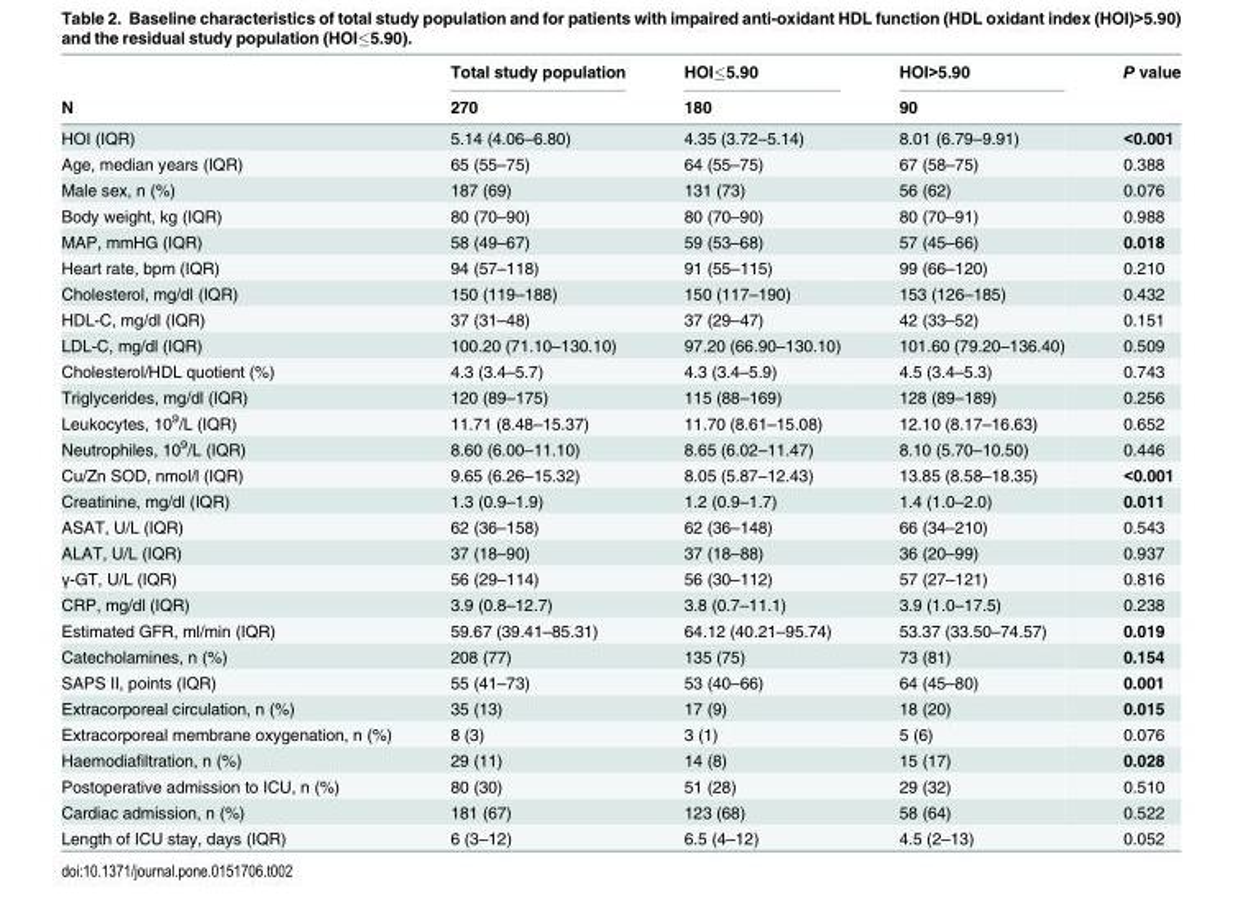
<table><thead><tr><td rowspan="2">N</td><td rowspan="2">Total study population 270</td><td rowspan="2">HOI≤5.90 180</td><td rowspan="2">HOI&gt;5.90 90</td><td rowspan="2">P value</td></tr><tr></tr></thead><tbody><tr><td>HOI (IQR)</td><td>5.14 (4.06–6.80)</td><td>4.35 (3.72–5.14)</td><td>8.01 (6.79–9.91)</td><td>&lt;0.001</td></tr><tr><td>Age, median years (IQR)</td><td>65 (55–75)</td><td>64 (55–75)</td><td>67 (58–75)</td><td>0.388</td></tr><tr><td>Male sex, n (%)</td><td>187 (69)</td><td>131 (73)</td><td>56 (62)</td><td>0.076</td></tr><tr><td>Body weight, kg (IQR)</td><td>80 (70–90)</td><td>80 (70–90)</td><td>80 (70–91)</td><td>0.988</td></tr><tr><td>MAP, mmHG (IQR)</td><td>58 (49–67)</td><td>59 (53–68)</td><td>57 (45–66)</td><td>0.018</td></tr><tr><td>Heart rate, bpm (IQR)</td><td>94 (57–118)</td><td>91 (55–115)</td><td>99 (66–120)</td><td>0.210</td></tr><tr><td>Cholesterol, mg/dl (IQR)</td><td>150 (119–188)</td><td>150 (117–190)</td><td>153 (126–185)</td><td>0.432</td></tr><tr><td>HDL-C, mg/dl (IQR)</td><td>37 (31–48)</td><td>37 (29–47)</td><td>42 (33–52)</td><td>0.151</td></tr><tr><td>LDL-C, mg/dl (IQR)</td><td>100.20 (71.10–130.10)</td><td>97.20 (66.90–130.10)</td><td>101.60 (79.20–136.40)</td><td>0.509</td></tr><tr><td>Cholesterol/HDL quotient (%)</td><td>4.3 (3.4–5.7)</td><td>4.3 (3.4–5.9)</td><td>4.5 (3.4–5.3)</td><td>0.743</td></tr><tr><td>Triglycerides, mg/dl (IQR)</td><td>120 (89–175)</td><td>115 (88–169)</td><td>128 (89–189)</td><td>0.256</td></tr><tr><td>Leukocytes, 10<sup>9</sup>/L (IQR)</td><td>11.71 (8.48–15.37)</td><td>11.70 (8.61–15.08)</td><td>12.10 (8.17–16.63)</td><td>0.652</td></tr><tr><td>Neutrophiles, 10<sup>9</sup>/L (IQR)</td><td>8.60 (6.00–11.10)</td><td>8.65 (6.02–11.47)</td><td>8.10 (5.70–10.50)</td><td>0.446</td></tr><tr><td>Cu/Zn SOD, nmol/l (IQR)</td><td>9.65 (6.26–15.32)</td><td>8.05 (5.87–12.43)</td><td>13.85 (8.58–18.35)</td><td>&lt;0.001</td></tr><tr><td>Creatinine, mg/dl (IQR)</td><td>1.3 (0.9–1.9)</td><td>1.2 (0.9–1.7)</td><td>1.4 (1.0–2.0)</td><td>0.011</td></tr><tr><td>ASAT, U/L (IQR)</td><td>62 (36–158)</td><td>62 (36–148)</td><td>66 (34–210)</td><td>0.543</td></tr><tr><td>ALAT, U/L (IQR)</td><td>37 (18–90)</td><td>37 (18–88)</td><td>36 (20–99)</td><td>0.937</td></tr><tr><td>γ-GT, U/L (IQR)</td><td>56 (29–114)</td><td>56 (30–112)</td><td>57 (27–121)</td><td>0.816</td></tr><tr><td>CRP, mg/dl (IQR)</td><td>3.9 (0.8–12.7)</td><td>3.8 (0.7–11.1)</td><td>3.9 (1.0–17.5)</td><td>0.238</td></tr><tr><td>Estimated GFR, ml/min (IQR)</td><td>59.67 (39.41–85.31)</td><td>64.12 (40.21–95.74)</td><td>53.37 (33.50–74.57)</td><td>0.019</td></tr><tr><td>Catecholamines, n (%)</td><td>208 (77)</td><td>135 (75)</td><td>73 (81)</td><td>0.154</td></tr><tr><td>SAPS II, points (IQR)</td><td>55 (41–73)</td><td>53 (40–66)</td><td>64 (45–80)</td><td>0.001</td></tr><tr><td>Extracorporeal circulation, n (%)</td><td>35 (13)</td><td>17 (9)</td><td>18 (20)</td><td>0.015</td></tr><tr><td>Extracorporeal membrane oxygenation, n (%)</td><td>8 (3)</td><td>3 (1)</td><td>5 (6)</td><td>0.076</td></tr><tr><td>Haemodiafiltration, n (%)</td><td>29 (11)</td><td>14 (8)</td><td>15 (17)</td><td>0.028</td></tr><tr><td>Postoperative admission to ICU, n (%)</td><td>80 (30)</td><td>51 (28)</td><td>29 (32)</td><td>0.510</td></tr><tr><td>Cardiac admission, n (%)</td><td>181 (67)</td><td>123 (68)</td><td>58 (64)</td><td>0.522</td></tr><tr><td>Length of ICU stay, days (IQR)</td><td>6 (3–12)</td><td>6.5 (4–12)</td><td>4.5 (2–13)</td><td>0.052</td></tr></tbody></table>